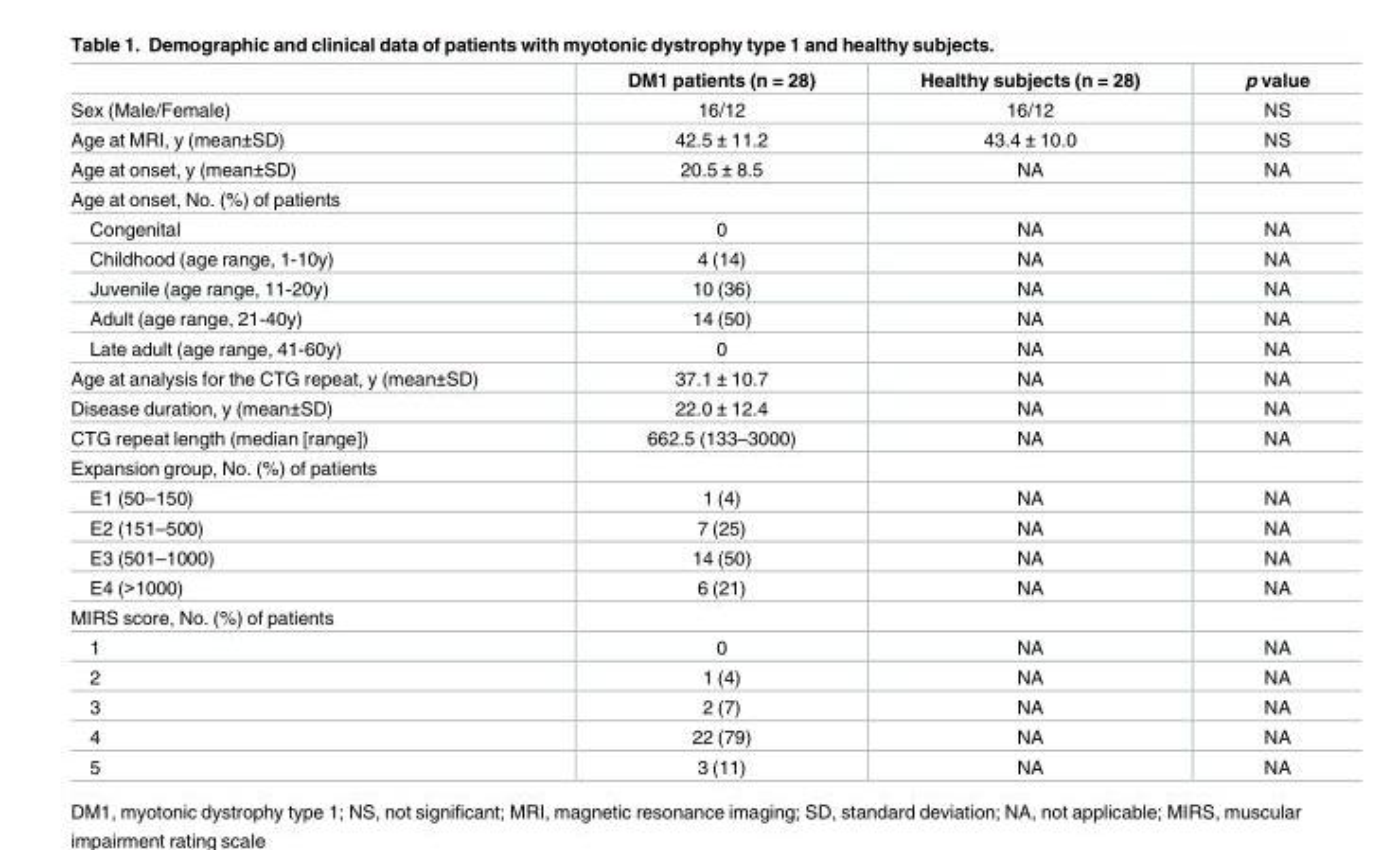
<table><thead><tr><td></td><td>DM1 patients (n = 28)</td><td>Healthy subjects (n = 28)</td><td>p value</td></tr></thead><tbody><tr><td>Sex (Male/Female)</td><td>16/12</td><td>16/12</td><td>NS</td></tr><tr><td>Age at MRI, y (mean±SD)</td><td>42.5 ± 11.2</td><td>43.4 ± 10.0</td><td>NS</td></tr><tr><td>Age at onset, y (mean±SD)</td><td>20.5 ± 8.5</td><td>NA</td><td>NA</td></tr><tr><td colspan="4">Age at onset, No. (%) of patients</td></tr><tr><td>Congenital</td><td>0</td><td>NA</td><td>NA</td></tr><tr><td>Childhood (age range, 1-10y)</td><td>4 (14)</td><td>NA</td><td>NA</td></tr><tr><td>Juvenile (age range, 11-20y)</td><td>10 (36)</td><td>NA</td><td>NA</td></tr><tr><td>Adult (age range, 21-40y)</td><td>14 (50)</td><td>NA</td><td>NA</td></tr><tr><td>Late adult (age range, 41-60y)</td><td>0</td><td>NA</td><td>NA</td></tr><tr><td>Age at analysis for the CTG repeat, y (mean±SD)</td><td>37.1 ± 10.7</td><td>NA</td><td>NA</td></tr><tr><td>Disease duration, y (mean±SD)</td><td>22.0 ± 12.4</td><td>NA</td><td>NA</td></tr><tr><td>CTG repeat length (median [range])</td><td>662.5 (133–3000)</td><td>NA</td><td>NA</td></tr><tr><td colspan="4">Expansion group, No. (%) of patients</td></tr><tr><td>E1 (50–150)</td><td>1 (4)</td><td>NA</td><td>NA</td></tr><tr><td>E2 (151–500)</td><td>7 (25)</td><td>NA</td><td>NA</td></tr><tr><td>E3 (501–1000)</td><td>14 (50)</td><td>NA</td><td>NA</td></tr><tr><td>E4 (&gt;1000)</td><td>6 (21)</td><td>NA</td><td>NA</td></tr><tr><td colspan="4">MIRS score, No. (%) of patients</td></tr><tr><td>1</td><td>0</td><td>NA</td><td>NA</td></tr><tr><td>2</td><td>1 (4)</td><td>NA</td><td>NA</td></tr><tr><td>3</td><td>2 (7)</td><td>NA</td><td>NA</td></tr><tr><td>4</td><td>22 (79)</td><td>NA</td><td>NA</td></tr><tr><td>5</td><td>3 (11)</td><td>NA</td><td>NA</td></tr></tbody></table>